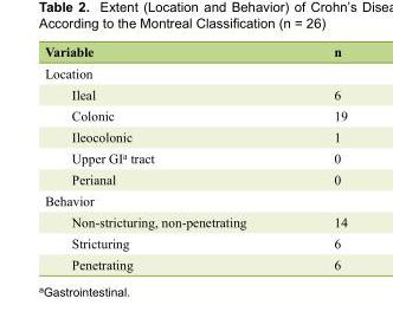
<table><thead><tr><td>Variable</td><td>n</td></tr></thead><tbody><tr><td colspan="2">Location</td></tr><tr><td>Ileal</td><td>6</td></tr><tr><td>Colonic</td><td>19</td></tr><tr><td>Ileocolonic</td><td>1</td></tr><tr><td>Upper GI<sup>a</sup> tract</td><td>0</td></tr><tr><td>Perianal</td><td>0</td></tr><tr><td colspan="2">Behavior</td></tr><tr><td>Non-stricturing, non-penetrating</td><td>14</td></tr><tr><td>Stricturing</td><td>6</td></tr><tr><td>Penetrating</td><td>6</td></tr></tbody></table>